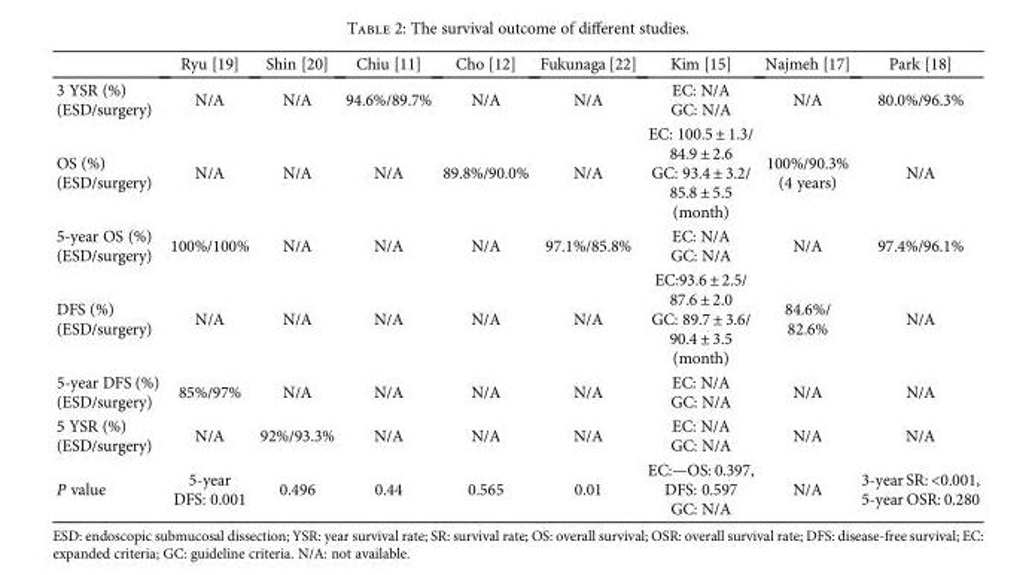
<table><thead><tr><td></td><td>Ryu [19]</td><td>Shin [20]</td><td>Chiu [11]</td><td>Cho [12]</td><td>Fukunaga [22]</td><td>Kim [15]</td><td>Najmeh [17]</td><td>Park [18]</td></tr></thead><tbody><tr><td>3 YSR (%) (ESD/surgery)</td><td>N/A</td><td>N/A</td><td>94.6%/89.7%</td><td>N/A</td><td>N/A</td><td>EC: N/A GC: N/A</td><td>N/A</td><td>80.0%/96.3%</td></tr><tr><td>OS (%) (ESD/surgery)</td><td>N/A</td><td>N/A</td><td>N/A</td><td>89.8%/90.0%</td><td>N/A</td><td>EC: 100.5 ± 1.3/ 84.9 ± 2.6 GC: 93.4 ± 3.2/ 85.8 ± 5.5 (month)</td><td>100%/90.3% (4 years)</td><td>N/A</td></tr><tr><td>5-year OS (%) (ESD/surgery)</td><td>100%/100%</td><td>N/A</td><td>N/A</td><td>N/A</td><td>97.1%/85.8%</td><td>EC: N/A GC: N/A</td><td>N/A</td><td>97.4%/96.1%</td></tr><tr><td>DFS (%) (ESD/surgery)</td><td>N/A</td><td>N/A</td><td>N/A</td><td>N/A</td><td>N/A</td><td>EC:93.6 ± 2.5/ 87.6 ± 2.0 GC: 89.7 ± 3.6/ 90.4 ± 3.5 (month)</td><td>84.6%/ 82.6%</td><td>N/A</td></tr><tr><td>5-year DFS (%) (ESD/surgery)</td><td>85%/97%</td><td>N/A</td><td>N/A</td><td>N/A</td><td>N/A</td><td>EC: N/A GC: N/A</td><td>N/A</td><td>N/A</td></tr><tr><td>5 YSR (%) (ESD/surgery)</td><td>N/A</td><td>92%/93.3%</td><td>N/A</td><td>N/A</td><td>N/A</td><td>EC: N/A GC: N/A</td><td>N/A</td><td>N/A</td></tr><tr><td>P value</td><td>5-year DFS: 0.001</td><td>0.496</td><td>0.44</td><td>0.565</td><td>0.01</td><td>EC:—OS: 0.397, DFS: 0.597 GC: N/A</td><td>N/A</td><td>3-year SR: &lt;0.001, 5-year OSR: 0.280</td></tr></tbody></table>